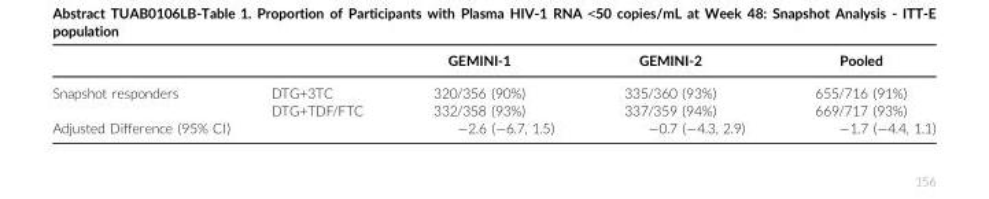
<table><thead><tr><td></td><td></td><td>GEMINI-1</td><td>GEMINI-2</td><td>Pooled</td></tr></thead><tbody><tr><td rowspan="2">Snapshot responders</td><td>DTG+3TC</td><td>320/356 (90%)</td><td>335/360 (93%)</td><td>655/716 (91%)</td></tr><tr><td>DTG+TDF/FTC</td><td>332/358 (93%)</td><td>337/359 (94%)</td><td>669/717 (93%)</td></tr><tr><td>Adjusted Difference (95% CI)</td><td></td><td>−2.6 (−6.7, 1.5)</td><td>−0.7 (−4.3, 2.9)</td><td>−1.7 (−4.4, 1.1)</td></tr></tbody></table>